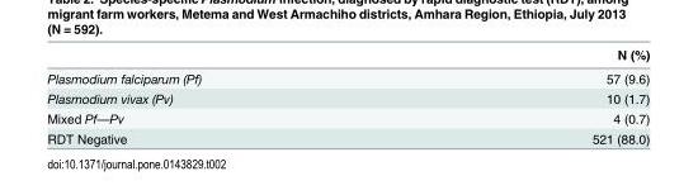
<table><thead><tr><td></td><td>N (%)</td></tr></thead><tbody><tr><td>Plasmodium falciparum (Pf)</td><td>57 (9.6)</td></tr><tr><td>Plasmodium vivax (Pv)</td><td>10 (1.7)</td></tr><tr><td>Mixed Pf—Pv</td><td>4 (0.7)</td></tr><tr><td>RDT Negative</td><td>521 (88.0)</td></tr></tbody></table>